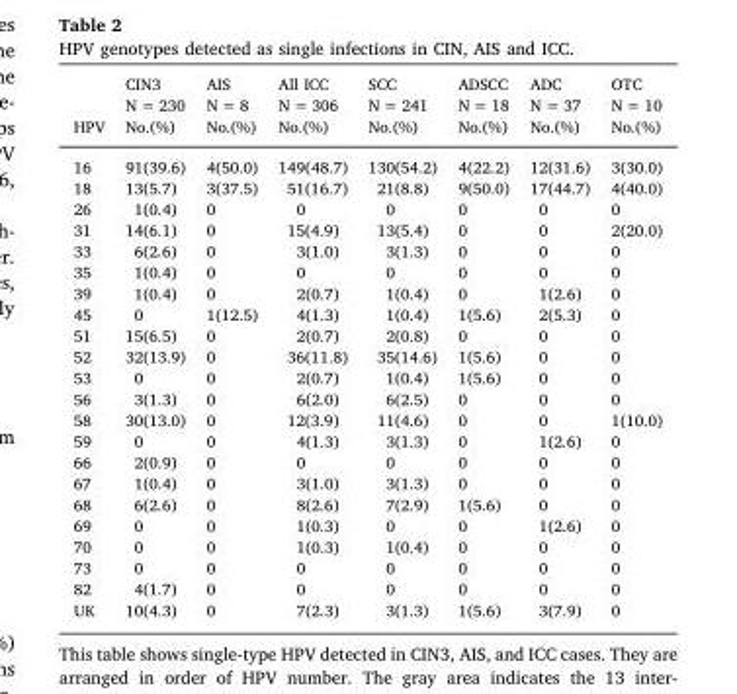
<table><thead><tr><td rowspan="3">HPV</td><td rowspan="3">CIN3 N = 230 No.(%)</td><td rowspan="3">AIS N = 8 No.(%)</td><td rowspan="3">All ICC N = 306 No.(%)</td><td rowspan="3">SCC N = 241 No.(%)</td><td rowspan="3">ADSCC N = 18 No.(%)</td><td rowspan="3">ADC N = 37 No.(%)</td><td rowspan="3">OTC N = 10 No.(%)</td></tr><tr></tr><tr></tr></thead><tbody><tr><td>16</td><td>91(39.6)</td><td>4(50.0)</td><td>149(48.7)</td><td>130(54.2)</td><td>4(22.2)</td><td>12(31.6)</td><td>3(30.0)</td></tr><tr><td>18</td><td>13(5.7)</td><td>3(37.5)</td><td>51(16.7)</td><td>21(8.8)</td><td>9(50.0)</td><td>17(44.7)</td><td>4(40.0)</td></tr><tr><td>26</td><td>1(0.4)</td><td>0</td><td>0</td><td>0</td><td>0</td><td>0</td><td>0</td></tr><tr><td>31</td><td>14(6.1)</td><td>0</td><td>15(4.9)</td><td>13(5.4)</td><td>0</td><td>0</td><td>2(20.0)</td></tr><tr><td>33</td><td>6(2.6)</td><td>0</td><td>3(1.0)</td><td>3(1.3)</td><td>0</td><td>0</td><td>0</td></tr><tr><td>35</td><td>1(0.4)</td><td>0</td><td>0</td><td>0</td><td>0</td><td>0</td><td>0</td></tr><tr><td>39</td><td>1(0.4)</td><td>0</td><td>2(0.7)</td><td>1(0.4)</td><td>0</td><td>1(2.6)</td><td>0</td></tr><tr><td>45</td><td>0</td><td>1(12.5)</td><td>4(1.3)</td><td>1(0.4)</td><td>1(5.6)</td><td>2(5.3)</td><td>0</td></tr><tr><td>51</td><td>15(6.5)</td><td>0</td><td>2(0.7)</td><td>2(0.8)</td><td>0</td><td>0</td><td>0</td></tr><tr><td>52</td><td>32(13.9)</td><td>0</td><td>36(11.8)</td><td>35(14.6)</td><td>1(5.6)</td><td>0</td><td>0</td></tr><tr><td>53</td><td>0</td><td>0</td><td>2(0.7)</td><td>1(0.4)</td><td>1(5.6)</td><td>0</td><td>0</td></tr><tr><td>56</td><td>3(1.3)</td><td>0</td><td>6(2.0)</td><td>6(2.5)</td><td>0</td><td>0</td><td>0</td></tr><tr><td>58</td><td>30(13.0)</td><td>0</td><td>12(3.9)</td><td>11(4.6)</td><td>0</td><td>0</td><td>1(10.0)</td></tr><tr><td>59</td><td>0</td><td>0</td><td>4(1.3)</td><td>3(1.3)</td><td>0</td><td>1(2.6)</td><td>0</td></tr><tr><td>66</td><td>2(0.9)</td><td>0</td><td>0</td><td>0</td><td>0</td><td>0</td><td>0</td></tr><tr><td>67</td><td>1(0.4)</td><td>0</td><td>3(1.0)</td><td>3(1.3)</td><td>0</td><td>0</td><td>0</td></tr><tr><td>68</td><td>6(2.6)</td><td>0</td><td>8(2.6)</td><td>7(2.9)</td><td>1(5.6)</td><td>0</td><td>0</td></tr><tr><td>69</td><td>0</td><td>0</td><td>1(0.3)</td><td>0</td><td>0</td><td>1(2.6)</td><td>0</td></tr><tr><td>70</td><td>0</td><td>0</td><td>1(0.3)</td><td>1(0.4)</td><td>0</td><td>0</td><td>0</td></tr><tr><td>73</td><td>0</td><td>0</td><td>0</td><td>0</td><td>0</td><td>0</td><td>0</td></tr><tr><td>82</td><td>4(1.7)</td><td>0</td><td>0</td><td>0</td><td>0</td><td>0</td><td>0</td></tr><tr><td>UK</td><td>10(4.3)</td><td>0</td><td>7(2.3)</td><td>3(1.3)</td><td>1(5.6)</td><td>3(7.9)</td><td>0</td></tr></tbody></table>